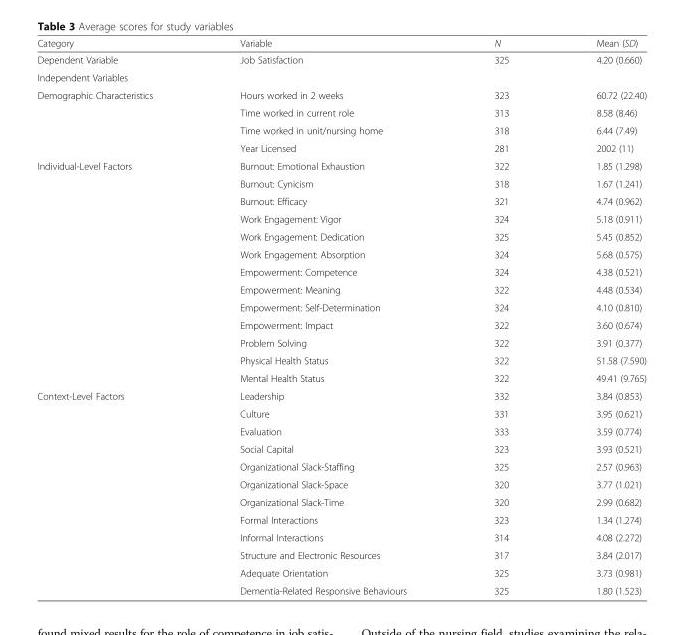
<table><thead><tr><td>Category</td><td>Variable</td><td>N</td><td>Mean (SD)</td></tr></thead><tbody><tr><td>Dependent Variable</td><td>Job Satisfaction</td><td>325</td><td>4.20 (0.660)</td></tr><tr><td colspan="4">Independent Variables</td></tr><tr><td rowspan="4">Demographic Characteristics</td><td>Hours worked in 2 weeks</td><td>323</td><td>60.72 (22.40)</td></tr><tr><td>Time worked in current role</td><td>313</td><td>8.58 (8.46)</td></tr><tr><td>Time worked in unit/nursing home</td><td>318</td><td>6.44 (7.49)</td></tr><tr><td>Year Licensed</td><td>281</td><td>2002 (11)</td></tr><tr><td rowspan="13">Individual-Level Factors</td><td>Burnout: Emotional Exhaustion</td><td>322</td><td>1.85 (1.298)</td></tr><tr><td>Burnout: Cynicism</td><td>318</td><td>1.67 (1.241)</td></tr><tr><td>Burnout: Efficacy</td><td>321</td><td>4.74 (0.962)</td></tr><tr><td>Work Engagement: Vigor</td><td>324</td><td>5.18 (0.911)</td></tr><tr><td>Work Engagement: Dedication</td><td>325</td><td>5.45 (0.852)</td></tr><tr><td>Work Engagement: Absorption</td><td>324</td><td>5.68 (0.575)</td></tr><tr><td>Empowerment: Competence</td><td>324</td><td>4.38 (0.521)</td></tr><tr><td>Empowerment: Meaning</td><td>322</td><td>4.48 (0.534)</td></tr><tr><td>Empowerment: Self-Determination</td><td>324</td><td>4.10 (0.810)</td></tr><tr><td>Empowerment: Impact</td><td>322</td><td>3.60 (0.674)</td></tr><tr><td>Problem Solving</td><td>322</td><td>3.91 (0.377)</td></tr><tr><td>Physical Health Status</td><td>322</td><td>51.58 (7.590)</td></tr><tr><td>Mental Health Status</td><td>322</td><td>49.41 (9.765)</td></tr><tr><td rowspan="12">Context-Level Factors</td><td>Leadership</td><td>332</td><td>3.84 (0.853)</td></tr><tr><td>Culture</td><td>331</td><td>3.95 (0.621)</td></tr><tr><td>Evaluation</td><td>333</td><td>3.59 (0.774)</td></tr><tr><td>Social Capital</td><td>323</td><td>3.93 (0.521)</td></tr><tr><td>Organizational Slack-Staffing</td><td>325</td><td>2.57 (0.963)</td></tr><tr><td>Organizational Slack-Space</td><td>320</td><td>3.77 (1.021)</td></tr><tr><td>Organizational Slack-Time</td><td>320</td><td>2.99 (0.682)</td></tr><tr><td>Formal Interactions</td><td>323</td><td>1.34 (1.274)</td></tr><tr><td>Informal Interactions</td><td>314</td><td>4.08 (2.272)</td></tr><tr><td>Structure and Electronic Resources</td><td>317</td><td>3.84 (2.017)</td></tr><tr><td>Adequate Orientation</td><td>325</td><td>3.73 (0.981)</td></tr><tr><td>Dementia-Related Responsive Behaviours</td><td>325</td><td>1.80 (1.523)</td></tr></tbody></table>